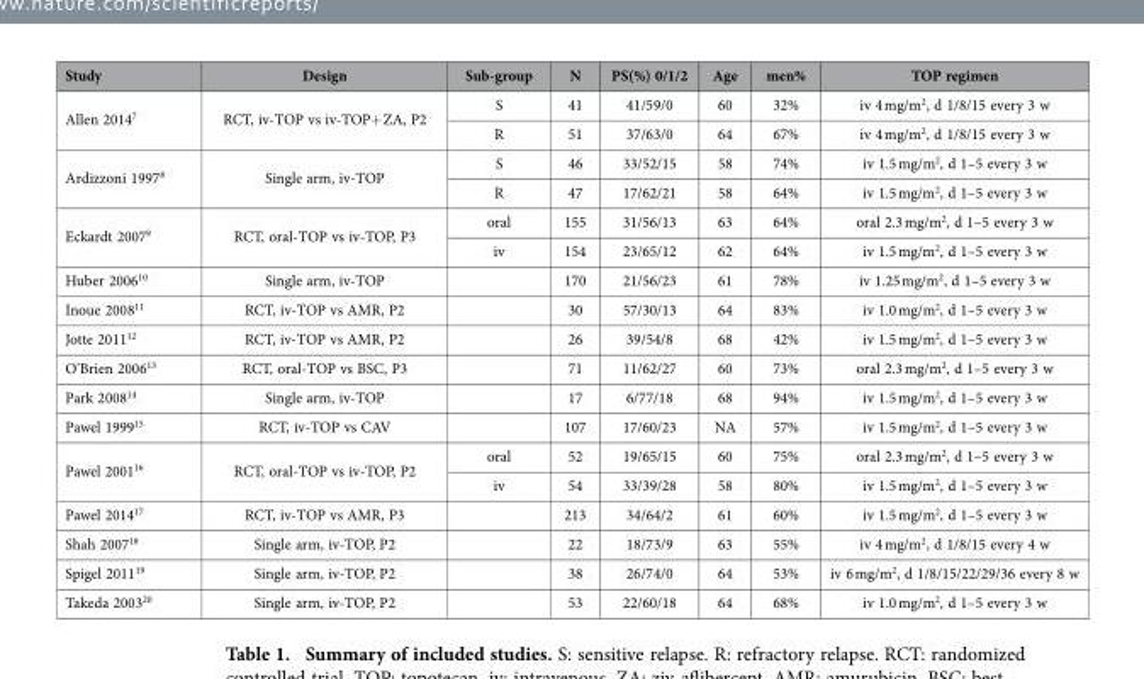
<table><thead><tr><td>Study</td><td>Design</td><td>Sub-group</td><td>N</td><td>PS(%) 0/1/2</td><td>Age</td><td>men%</td><td>TOP regimen</td></tr></thead><tbody><tr><td rowspan="2">Allen 2014<sup>7</sup></td><td rowspan="2">RCT, iv-TOP vs iv-TOP+ ZA, P2</td><td>S</td><td>41</td><td>41/59/0</td><td>60</td><td>32%</td><td>iv 4 mg/m<sup>2</sup>, d 1/8/15 every 3 w</td></tr><tr><td>R</td><td>51</td><td>37/63/0</td><td>64</td><td>67%</td><td>iv 4 mg/m<sup>2</sup>, d 1/8/15 every 3 w</td></tr><tr><td rowspan="2">Ardizzoni 1997<sup>8</sup></td><td rowspan="2">Single arm, iv-TOP</td><td>S</td><td>46</td><td>33/52/15</td><td>58</td><td>74%</td><td>iv 1.5 mg/m<sup>2</sup>, d 1–5 every 3 w</td></tr><tr><td>R</td><td>47</td><td>17/62/21</td><td>58</td><td>64%</td><td>iv 1.5 mg/m<sup>2</sup>, d 1–5 every 3 w</td></tr><tr><td rowspan="2">Eckardt 2007<sup>9</sup></td><td rowspan="2">RCT, oral-TOP vs iv-TOP, P3</td><td>oral</td><td>155</td><td>31/56/13</td><td>63</td><td>64%</td><td>oral 2.3 mg/m<sup>2</sup>, d 1–5 every 3 w</td></tr><tr><td>iv</td><td>154</td><td>23/65/12</td><td>62</td><td>64%</td><td>iv 1.5 mg/m<sup>2</sup>, d 1–5 every 3 w</td></tr><tr><td>Huber 2006<sup>10</sup></td><td>Single arm, iv-TOP</td><td></td><td>170</td><td>21/56/23</td><td>61</td><td>78%</td><td>iv 1.25 mg/m<sup>2</sup>, d 1–5 every 3 w</td></tr><tr><td>Inoue 2008<sup>11</sup></td><td>RCT, iv-TOP vs AMR, P2</td><td></td><td>30</td><td>57/30/13</td><td>64</td><td>83%</td><td>iv 1.0 mg/m<sup>2</sup>, d 1–5 every 3 w</td></tr><tr><td>Jotte 2011<sup>12</sup></td><td>RCT, iv-TOP vs AMR, P2</td><td></td><td>26</td><td>39/54/8</td><td>68</td><td>42%</td><td>iv 1.5 mg/m<sup>2</sup>, d 1–5 every 3 w</td></tr><tr><td>O’Brien 2006<sup>13</sup></td><td>RCT, oral-TOP vs BSC, P3</td><td></td><td>71</td><td>11/62/27</td><td>60</td><td>73%</td><td>oral 2.3 mg/m<sup>2</sup>, d 1–5 every 3 w</td></tr><tr><td>Park 2008<sup>14</sup></td><td>Single arm, iv-TOP</td><td></td><td>17</td><td>6/77/18</td><td>68</td><td>94%</td><td>iv 1.5 mg/m<sup>2</sup>, d 1–5 every 3 w</td></tr><tr><td>Pawel 1999<sup>15</sup></td><td>RCT, iv-TOP vs CAV</td><td></td><td>107</td><td>17/60/23</td><td>NA</td><td>57%</td><td>iv 1.5 mg/m<sup>2</sup>, d 1–5 every 3 w</td></tr><tr><td rowspan="2">Pawel 2001<sup>16</sup></td><td rowspan="2">RCT, oral-TOP vs iv-TOP, P2</td><td>oral</td><td>52</td><td>19/65/15</td><td>60</td><td>75%</td><td>oral 2.3 mg/m<sup>2</sup>, d 1–5 every 3 w</td></tr><tr><td>iv</td><td>54</td><td>33/39/28</td><td>58</td><td>80%</td><td>iv 1.5 mg/m<sup>2</sup>, d 1–5 every 3 w</td></tr><tr><td>Pawel 2014<sup>17</sup></td><td>RCT, iv-TOP vs AMR, P3</td><td></td><td>213</td><td>34/64/2</td><td>61</td><td>60%</td><td>iv 1.5 mg/m<sup>2</sup>, d 1–5 every 3 w</td></tr><tr><td>Shah 2007<sup>18</sup></td><td>Single arm, iv-TOP, P2</td><td></td><td>22</td><td>18/73/9</td><td>63</td><td>55%</td><td>iv 4 mg/m<sup>2</sup>, d 1/8/15 every 4 w</td></tr><tr><td>Spigel 2011<sup>19</sup></td><td>Single arm, iv-TOP, P2</td><td></td><td>38</td><td>26/74/0</td><td>64</td><td>53%</td><td>iv 6 mg/m<sup>2</sup>, d 1/8/15/22/29/36 every 8 w</td></tr><tr><td>Takeda 2003<sup>20</sup></td><td>Single arm, iv-TOP, P2</td><td></td><td>53</td><td>22/60/18</td><td>64</td><td>68%</td><td>iv 1.0 mg/m<sup>2</sup>, d 1–5 every 3 w</td></tr></tbody></table>